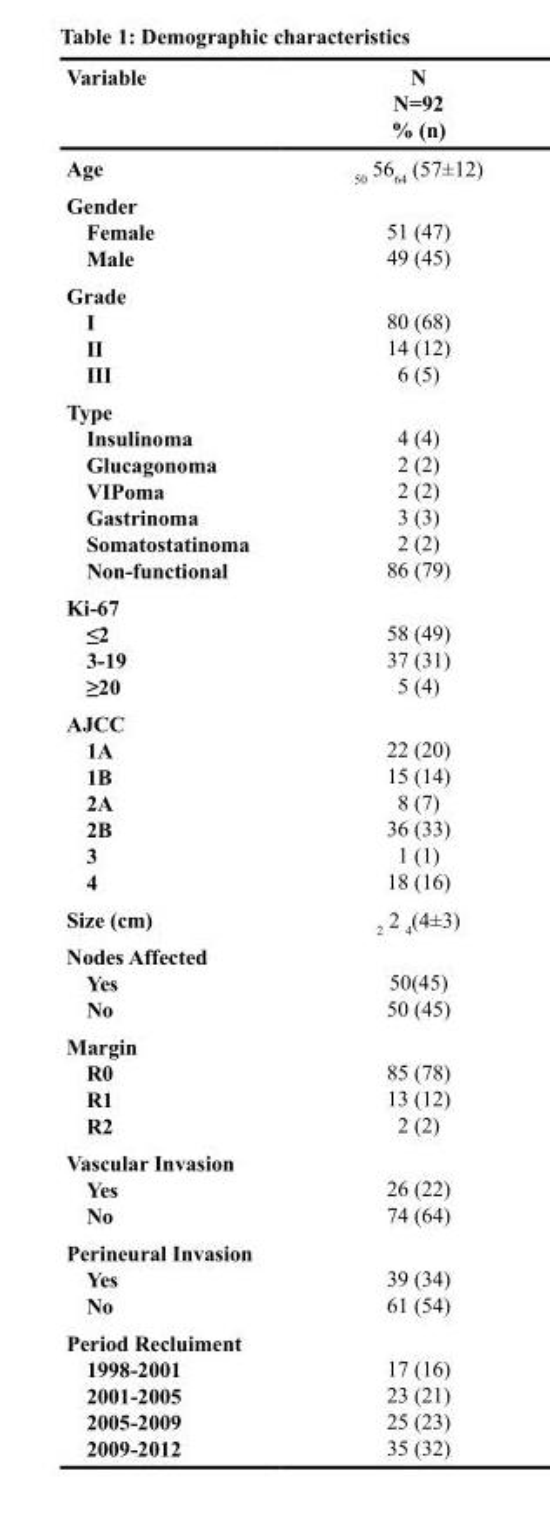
<table><thead><tr><td>Variable</td><td>N N=92 % (n)</td></tr></thead><tbody><tr><td>Age</td><td><sub>50</sub> 56<sub>64</sub> (57±12)</td></tr><tr><td>Gender Female Male</td><td>51 (47) 49 (45)</td></tr><tr><td>Grade I II III</td><td>80 (68) 14 (12) 6 (5)</td></tr><tr><td>Type Insulinoma Glucagonoma VIPoma Gastrinoma Somatostatinoma Non-functional</td><td>4 (4) 2 (2) 2 (2) 3 (3) 2 (2) 86 (79)</td></tr><tr><td>Ki-67 ≤2 3-19 ≥20</td><td>58 (49) 37 (31) 5 (4)</td></tr><tr><td>AJCC 1A 1B 2A 2B 3 4</td><td>22 (20) 15 (14) 8 (7) 36 (33) 1 (1) 18 (16)</td></tr><tr><td>Size (cm)</td><td><sub>2</sub> 2 <sub>4</sub>(4±3)</td></tr><tr><td>Nodes Affected Yes No</td><td>50(45) 50 (45)</td></tr><tr><td>Margin R0 R1 R2</td><td>85 (78) 13 (12) 2 (2)</td></tr><tr><td>Vascular Invasion Yes No</td><td>26 (22) 74 (64)</td></tr><tr><td>Perineural Invasion Yes No</td><td>39 (34) 61 (54)</td></tr><tr><td>Period Recluiment 1998-2001 2001-2005 2005-2009 2009-2012</td><td>17 (16) 23 (21) 25 (23) 35 (32)</td></tr></tbody></table>